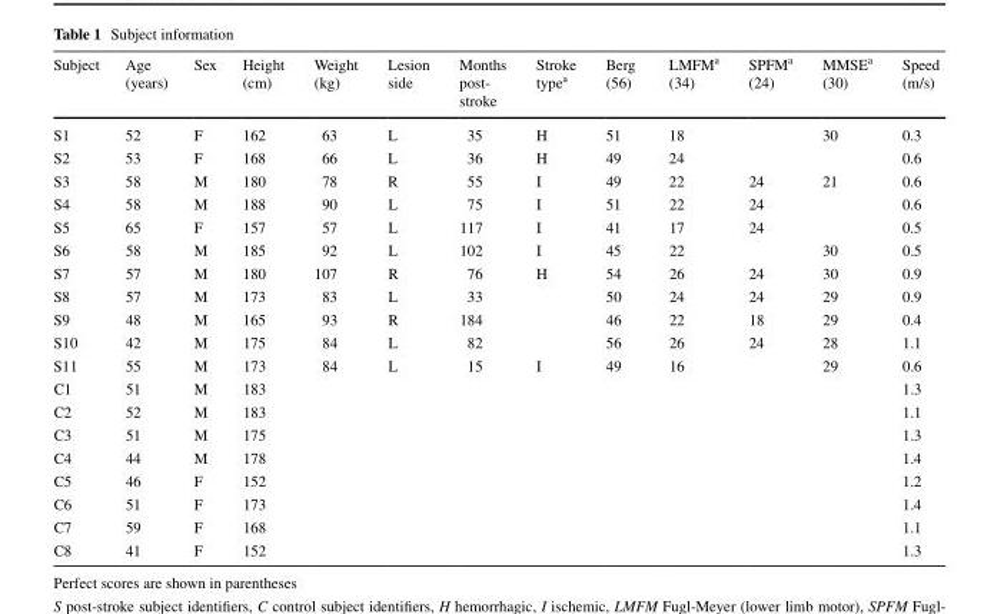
<table><thead><tr><td>Subject</td><td>Age (years)</td><td>Sex</td><td>Height (cm)</td><td>Weight (kg)</td><td>Lesion side</td><td>Months post- stroke</td><td>Stroke type<sup>a</sup></td><td>Berg (56)</td><td>LMFM<sup>a</sup> (34)</td><td>SPFM<sup>a</sup> (24)</td><td>MMSE<sup>a</sup> (30)</td><td>Speed (m/s)</td></tr></thead><tbody><tr><td>S1</td><td>52</td><td>F</td><td>162</td><td>63</td><td>L</td><td>35</td><td>H</td><td>51</td><td>18</td><td></td><td>30</td><td>0.3</td></tr><tr><td>S2</td><td>53</td><td>F</td><td>168</td><td>66</td><td>L</td><td>36</td><td>H</td><td>49</td><td>24</td><td></td><td></td><td>0.6</td></tr><tr><td>S3</td><td>58</td><td>M</td><td>180</td><td>78</td><td>R</td><td>55</td><td>I</td><td>49</td><td>22</td><td>24</td><td>21</td><td>0.6</td></tr><tr><td>S4</td><td>58</td><td>M</td><td>188</td><td>90</td><td>L</td><td>75</td><td>I</td><td>51</td><td>22</td><td>24</td><td></td><td>0.6</td></tr><tr><td>S5</td><td>65</td><td>F</td><td>157</td><td>57</td><td>L</td><td>117</td><td>I</td><td>41</td><td>17</td><td>24</td><td></td><td>0.5</td></tr><tr><td>S6</td><td>58</td><td>M</td><td>185</td><td>92</td><td>L</td><td>102</td><td>I</td><td>45</td><td>22</td><td></td><td>30</td><td>0.5</td></tr><tr><td>S7</td><td>57</td><td>M</td><td>180</td><td>107</td><td>R</td><td>76</td><td>H</td><td>54</td><td>26</td><td>24</td><td>30</td><td>0.9</td></tr><tr><td>S8</td><td>57</td><td>M</td><td>173</td><td>83</td><td>L</td><td>33</td><td></td><td>50</td><td>24</td><td>24</td><td>29</td><td>0.9</td></tr><tr><td>S9</td><td>48</td><td>M</td><td>165</td><td>93</td><td>R</td><td>184</td><td></td><td>46</td><td>22</td><td>18</td><td>29</td><td>0.4</td></tr><tr><td>S10</td><td>42</td><td>M</td><td>175</td><td>84</td><td>L</td><td>82</td><td></td><td>56</td><td>26</td><td>24</td><td>28</td><td>1.1</td></tr><tr><td>S11</td><td>55</td><td>M</td><td>173</td><td>84</td><td>L</td><td>15</td><td>I</td><td>49</td><td>16</td><td></td><td>29</td><td>0.6</td></tr><tr><td>C1</td><td>51</td><td>M</td><td>183</td><td></td><td></td><td></td><td></td><td></td><td></td><td></td><td></td><td>1.3</td></tr><tr><td>C2</td><td>52</td><td>M</td><td>183</td><td></td><td></td><td></td><td></td><td></td><td></td><td></td><td></td><td>1.1</td></tr><tr><td>C3</td><td>51</td><td>M</td><td>175</td><td></td><td></td><td></td><td></td><td></td><td></td><td></td><td></td><td>1.3</td></tr><tr><td>C4</td><td>44</td><td>M</td><td>178</td><td></td><td></td><td></td><td></td><td></td><td></td><td></td><td></td><td>1.4</td></tr><tr><td>C5</td><td>46</td><td>F</td><td>152</td><td></td><td></td><td></td><td></td><td></td><td></td><td></td><td></td><td>1.2</td></tr><tr><td>C6</td><td>51</td><td>F</td><td>173</td><td></td><td></td><td></td><td></td><td></td><td></td><td></td><td></td><td>1.4</td></tr><tr><td>C7</td><td>59</td><td>F</td><td>168</td><td></td><td></td><td></td><td></td><td></td><td></td><td></td><td></td><td>1.1</td></tr><tr><td>C8</td><td>41</td><td>F</td><td>152</td><td></td><td></td><td></td><td></td><td></td><td></td><td></td><td></td><td>1.3</td></tr></tbody></table>